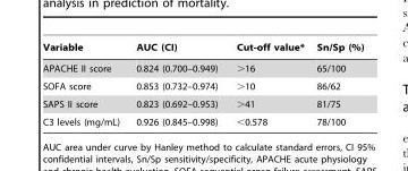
<table><thead><tr><td>Variable</td><td>AUC (CI)</td><td>Cut-off value*</td><td>Sn/Sp (%)</td></tr></thead><tbody><tr><td>APACHE II score</td><td>0.824 (0.700–0.949)</td><td>&gt;16</td><td>65/100</td></tr><tr><td>SOFA score</td><td>0.853 (0.732–0.974)</td><td>&gt;10</td><td>86/62</td></tr><tr><td>SAPS II score</td><td>0.823 (0.692–0.953)</td><td>&gt;41</td><td>81/75</td></tr><tr><td>C3 levels (mg/mL)</td><td>0.926 (0.845–0.998)</td><td>&lt;0.578</td><td>78/100</td></tr></tbody></table>